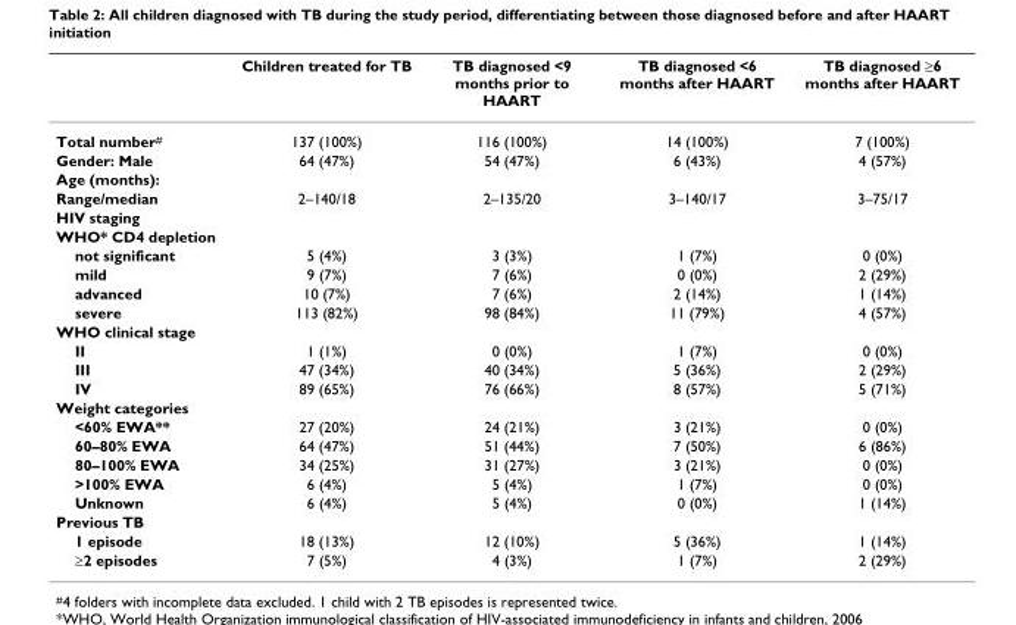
<table><thead><tr><td></td><td>Children treated for TB</td><td>TB diagnosed &lt;9 months prior to HAART</td><td>TB diagnosed &lt;6 months after HAART</td><td>TB diagnosed ≥6 months after HAART</td></tr></thead><tbody><tr><td>Total number<sup>#</sup></td><td>137 (100%)</td><td>116 (100%)</td><td>14 (100%)</td><td>7 (100%)</td></tr><tr><td>Gender: Male</td><td>64 (47%)</td><td>54 (47%)</td><td>6 (43%)</td><td>4 (57%)</td></tr><tr><td colspan="5">Age (months):</td></tr><tr><td>Range/median</td><td>2–140/18</td><td>2–135/20</td><td>3–140/17</td><td>3–75/17</td></tr><tr><td colspan="5">HIV staging</td></tr><tr><td colspan="5">WHO* CD4 depletion</td></tr><tr><td>not significant</td><td>5 (4%)</td><td>3 (3%)</td><td>1 (7%)</td><td>0 (0%)</td></tr><tr><td>mild</td><td>9 (7%)</td><td>7 (6%)</td><td>0 (0%)</td><td>2 (29%)</td></tr><tr><td>advanced</td><td>10 (7%)</td><td>7 (6%)</td><td>2 (14%)</td><td>1 (14%)</td></tr><tr><td>severe</td><td>113 (82%)</td><td>98 (84%)</td><td>11 (79%)</td><td>4 (57%)</td></tr><tr><td colspan="5">WHO clinical stage</td></tr><tr><td>II</td><td>1 (1%)</td><td>0 (0%)</td><td>1 (7%)</td><td>0 (0%)</td></tr><tr><td>III</td><td>47 (34%)</td><td>40 (34%)</td><td>5 (36%)</td><td>2 (29%)</td></tr><tr><td>IV</td><td>89 (65%)</td><td>76 (66%)</td><td>8 (57%)</td><td>5 (71%)</td></tr><tr><td colspan="5">Weight categories</td></tr><tr><td>&lt;60% EWA**</td><td>27 (20%)</td><td>24 (21%)</td><td>3 (21%)</td><td>0 (0%)</td></tr><tr><td>60–80% EWA</td><td>64 (47%)</td><td>51 (44%)</td><td>7 (50%)</td><td>6 (86%)</td></tr><tr><td>80–100% EWA</td><td>34 (25%)</td><td>31 (27%)</td><td>3 (21%)</td><td>0 (0%)</td></tr><tr><td>&gt;100% EWA</td><td>6 (4%)</td><td>5 (4%)</td><td>1 (7%)</td><td>0 (0%)</td></tr><tr><td>Unknown</td><td>6 (4%)</td><td>5 (4%)</td><td>0 (0%)</td><td>1 (14%)</td></tr><tr><td colspan="5">Previous TB</td></tr><tr><td>1 episode</td><td>18 (13%)</td><td>12 (10%)</td><td>5 (36%)</td><td>1 (14%)</td></tr><tr><td>≥2 episodes</td><td>7 (5%)</td><td>4 (3%)</td><td>1 (7%)</td><td>2 (29%)</td></tr></tbody></table>